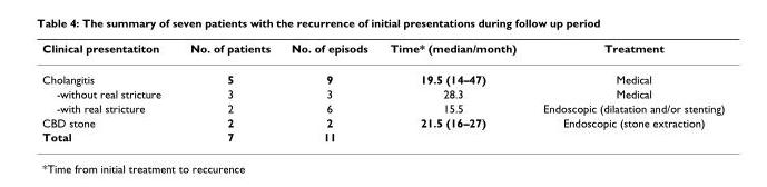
<table><thead><tr><td>Clinical presentatiton</td><td>No. of patients</td><td>No. of episods</td><td>Time* (median/month)</td><td>Treatment</td></tr></thead><tbody><tr><td>Cholangitis</td><td>5</td><td>9</td><td>19.5 (14–47)</td><td>Medical</td></tr><tr><td>-without real stricture</td><td>3</td><td>3</td><td>28.3</td><td>Medical</td></tr><tr><td>-with real stricture</td><td>2</td><td>6</td><td>15.5</td><td>Endoscopic (dilatation and/or stenting)</td></tr><tr><td>CBD stone</td><td>2</td><td>2</td><td>21.5 (16–27)</td><td>Endoscopic (stone extraction)</td></tr><tr><td>Total</td><td>7</td><td>11</td><td></td><td></td></tr></tbody></table>